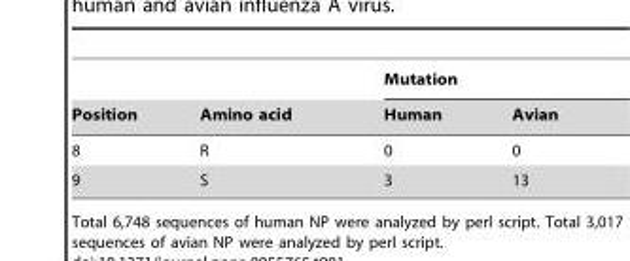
<table><thead><tr><td rowspan="2">Position</td><td rowspan="2">Amino acid</td><td colspan="2">Mutation</td></tr><tr><td>Human</td><td>Avian</td></tr></thead><tbody><tr><td>8</td><td>R</td><td>0</td><td>0</td></tr><tr><td>9</td><td>S</td><td>3</td><td>13</td></tr></tbody></table>